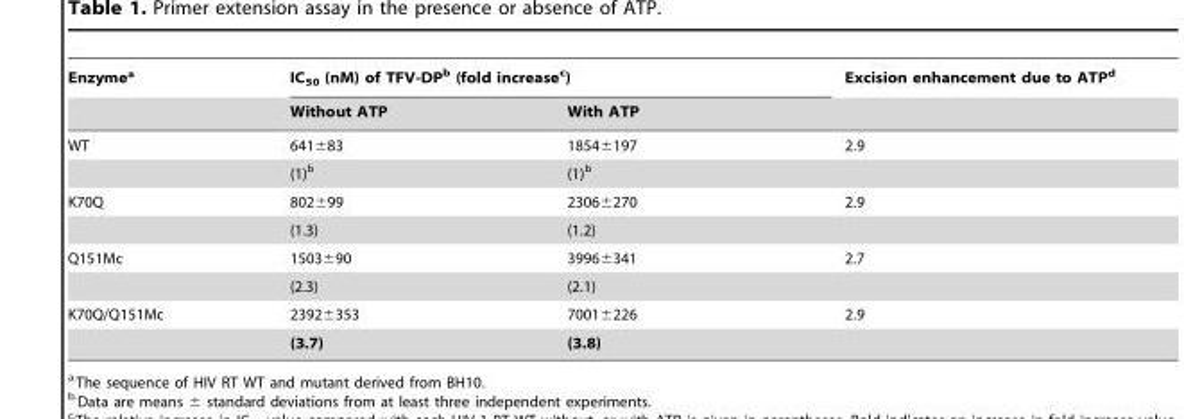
<table><thead><tr><td rowspan="2">Enzyme<sup>a</sup></td><td colspan="2">IC<sub>50</sub> (nM) of TFV-DP<sup>b</sup> (fold increase<sup>c</sup>)</td><td rowspan="2">Excision enhancement due to ATP<sup>d</sup></td></tr><tr><td>Without ATP</td><td>With ATP</td></tr></thead><tbody><tr><td rowspan="2">WT</td><td>641±83</td><td>1854±197</td><td>2.9</td></tr><tr><td>(1)<sup>b</sup></td><td>(1)<sup>b</sup></td><td></td></tr><tr><td rowspan="2">K70Q</td><td>802±99</td><td>2306±270</td><td>2.9</td></tr><tr><td>(1.3)</td><td>(1.2)</td><td></td></tr><tr><td rowspan="2">Q151Mc</td><td>1503±90</td><td>3996±341</td><td>2.7</td></tr><tr><td>(2.3)</td><td>(2.1)</td><td></td></tr><tr><td rowspan="2">K70Q/Q151Mc</td><td>2392±353</td><td>7001±226</td><td>2.9</td></tr><tr><td>(3.7)</td><td>(3.8)</td><td></td></tr></tbody></table>